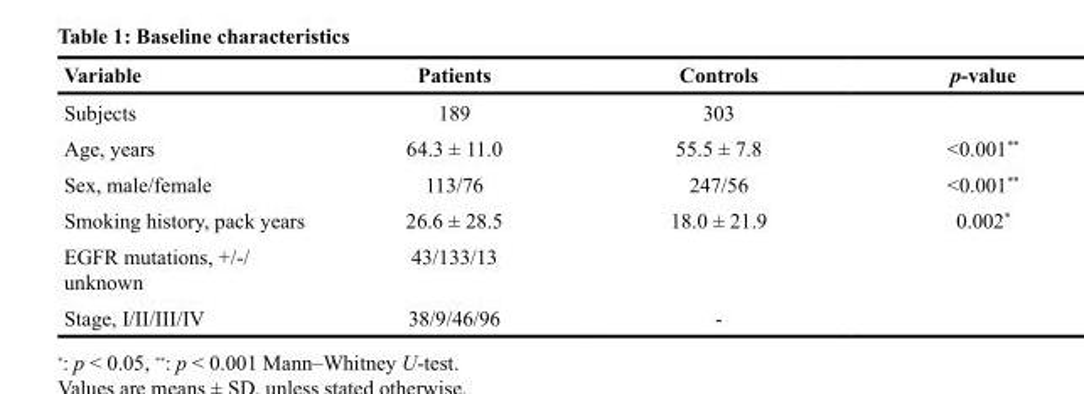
<table><thead><tr><td>Variable</td><td>Patients</td><td>Controls</td><td>p-value</td></tr></thead><tbody><tr><td>Subjects</td><td>189</td><td>303</td><td></td></tr><tr><td>Age, years</td><td>64.3 ± 11.0</td><td>55.5 ± 7.8</td><td>&lt;0.001**</td></tr><tr><td>Sex, male/female</td><td>113/76</td><td>247/56</td><td>&lt;0.001**</td></tr><tr><td>Smoking history, pack years</td><td>26.6 ± 28.5</td><td>18.0 ± 21.9</td><td>0.002*</td></tr><tr><td>EGFR mutations, +/-/ unknown</td><td>43/133/13</td><td></td><td></td></tr><tr><td>Stage, I/II/III/IV</td><td>38/9/46/96</td><td>-</td><td></td></tr></tbody></table>